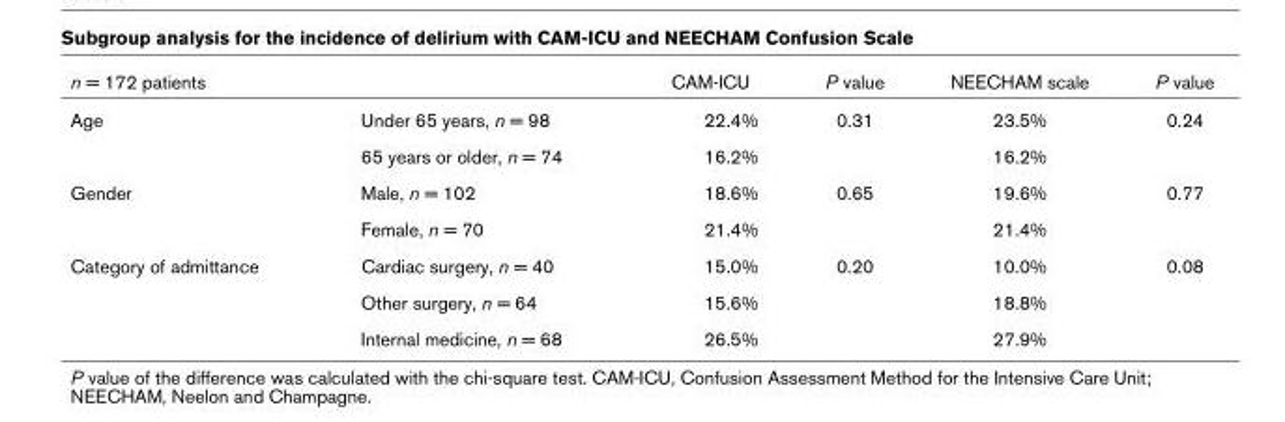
<table><thead><tr><td>n = 172 patients</td><td></td><td>CAM-ICU</td><td>P value</td><td>NEECHAM scale</td><td>P value</td></tr></thead><tbody><tr><td rowspan="2">Age</td><td>Under 65 years, n = 98</td><td>22.4%</td><td>0.31</td><td>23.5%</td><td>0.24</td></tr><tr><td>65 years or older, n = 74</td><td>16.2%</td><td></td><td>16.2%</td><td></td></tr><tr><td rowspan="2">Gender</td><td>Male, n = 102</td><td>18.6%</td><td>0.65</td><td>19.6%</td><td>0.77</td></tr><tr><td>Female, n = 70</td><td>21.4%</td><td></td><td>21.4%</td><td></td></tr><tr><td rowspan="3">Category of admittance</td><td>Cardiac surgery, n = 40</td><td>15.0%</td><td>0.20</td><td>10.0%</td><td>0.08</td></tr><tr><td>Other surgery, n = 64</td><td>15.6%</td><td></td><td>18.8%</td><td></td></tr><tr><td>Internal medicine, n = 68</td><td>26.5%</td><td></td><td>27.9%</td><td></td></tr></tbody></table>